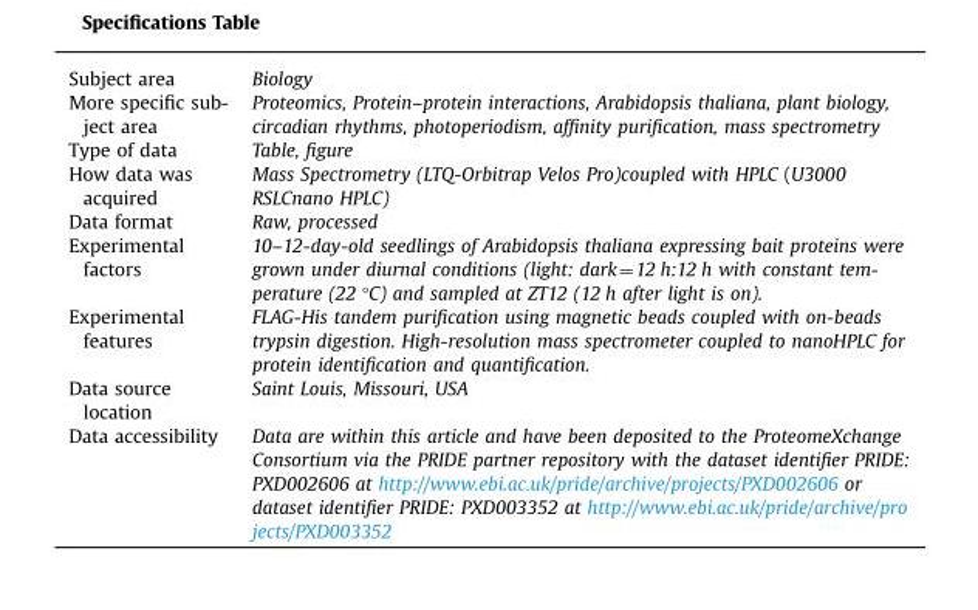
<table><tbody><tr><td>Subject area</td><td>Biology</td></tr><tr><td>More specific sub- ject area</td><td>Proteomics, Protein–protein interactions, Arabidopsis thaliana, plant biology, circadian rhythms, photoperiodism, affinity purification, mass spectrometry</td></tr><tr><td>Type of data</td><td>Table, figure</td></tr><tr><td>How data was acquired</td><td>Mass Spectrometry (LTQ-Orbitrap Velos Pro)coupled with HPLC (U3000 RSLCnano HPLC)</td></tr><tr><td>Data format</td><td>Raw, processed</td></tr><tr><td>Experimental factors</td><td>10–12-day-old seedlings of Arabidopsis thaliana expressing bait proteins were grown under diurnal conditions (light: dark¼12 h:12 h with constant tem- perature (22 °C) and sampled at ZT12 (12 h after light is on).</td></tr><tr><td>Experimental features</td><td>FLAG-His tandem purification using magnetic beads coupled with on-beads trypsin digestion. High-resolution mass spectrometer coupled to nanoHPLC for protein identification and quantification.</td></tr><tr><td>Data source location</td><td>Saint Louis, Missouri, USA</td></tr><tr><td>Data accessibility</td><td>Data are within this article and have been deposited to the ProteomeXchange Consortium via the PRIDE partner repository with the dataset identifier PRIDE: PXD002606 at http://www.ebi.ac.uk/pride/archive/projects/PXD002606 or dataset identifier PRIDE: PXD003352 at http://www.ebi.ac.uk/pride/archive/pro jects/PXD003352</td></tr></tbody></table>